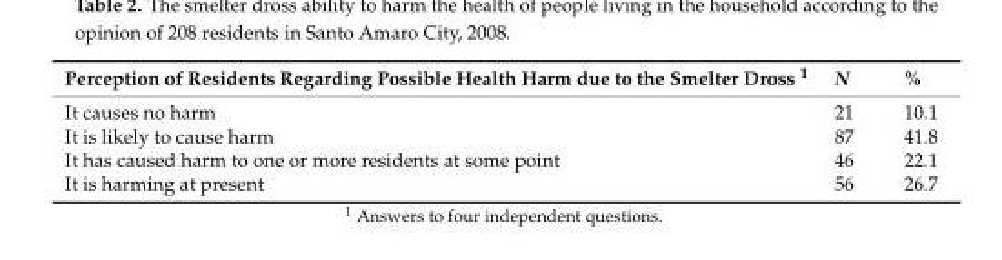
<table><thead><tr><td>Perception of Residents Regarding Possible Health Harm due to the Smelter Dross <sup>1</sup></td><td>N</td><td>%</td></tr></thead><tbody><tr><td>It causes no harm</td><td>21</td><td>10.1</td></tr><tr><td>It is likely to cause harm</td><td>87</td><td>41.8</td></tr><tr><td>It has caused harm to one or more residents at some point</td><td>46</td><td>22.1</td></tr><tr><td>It is harming at present</td><td>56</td><td>26.7</td></tr></tbody></table>